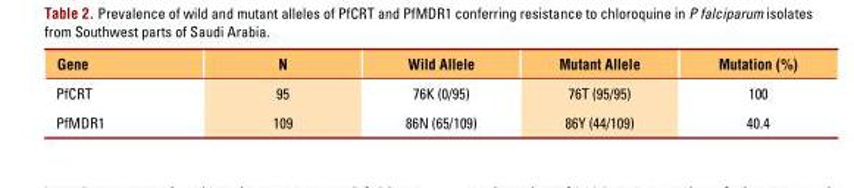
<table><thead><tr><td>Gene</td><td>N</td><td>Wild Allele</td><td>Mutant Allele</td><td>Mutation (%)</td></tr></thead><tbody><tr><td>PfCRT</td><td>95</td><td>76K (0/95)</td><td>76T (95/95)</td><td>100</td></tr><tr><td>PfMDR1</td><td>109</td><td>86N (65/109)</td><td>86Y (44/109)</td><td>40.4</td></tr></tbody></table>